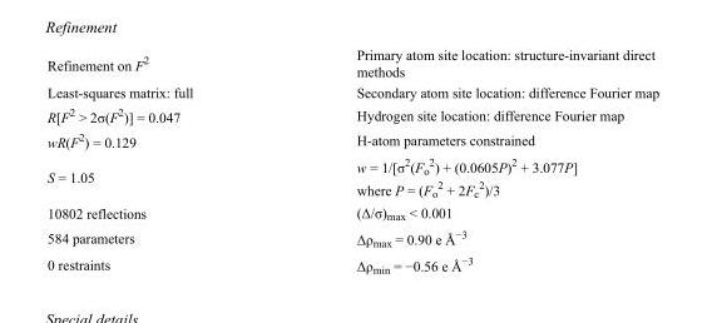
<table><tbody><tr><td>Refinement on F<sup>2</sup></td><td>Primary atom site location: structure-invariant direct methods</td></tr><tr><td>Least-squares matrix: full</td><td>Secondary atom site location: difference Fourier map</td></tr><tr><td>R[F<sup>2</sup> &gt; 2σ(F<sup>2</sup>)] = 0.047</td><td>Hydrogen site location: difference Fourier map</td></tr><tr><td>wR(F<sup>2</sup>) = 0.129</td><td>H-atom parameters constrained</td></tr><tr><td>S = 1.05</td><td>w = 1/[σ<sup>2</sup>(F<sub>o</sub> <sup>2</sup>) + (0.0605P)<sup>2</sup> + 3.077P] where P = (F<sub>o</sub> <sup>2</sup> + 2F<sub>c</sub> <sup>2</sup>)/3</td></tr><tr><td>10802 reflections</td><td>(Δ/σ)<sub>max</sub> &lt; 0.001</td></tr><tr><td>584 parameters</td><td>Δρ<sub>max</sub> = 0.90 e Å<sup>−3</sup></td></tr><tr><td>0 restraints</td><td>Δρ<sub>min</sub> = −0.56 e Å<sup>−3</sup></td></tr></tbody></table>